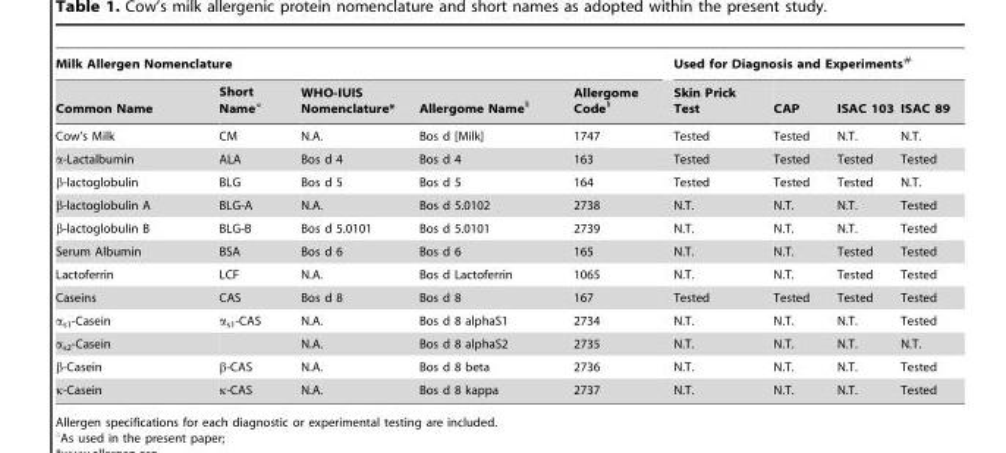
<table><thead><tr><td colspan="5">Milk Allergen Nomenclature</td><td colspan="4">Used for Diagnosis and Experiments#</td></tr><tr><td>Common Name</td><td>Short Name°</td><td>WHO-IUIS Nomenclature*</td><td>Allergome Name§</td><td>Allergome Code§</td><td>Skin Prick Test</td><td>CAP</td><td>ISAC 103</td><td>ISAC 89</td></tr></thead><tbody><tr><td>Cow’s Milk</td><td>CM</td><td>N.A.</td><td>Bos d [Milk]</td><td>1747</td><td>Tested</td><td>Tested</td><td>N.T.</td><td>N.T.</td></tr><tr><td>α-Lactalbumin</td><td>ALA</td><td>Bos d 4</td><td>Bos d 4</td><td>163</td><td>Tested</td><td>Tested</td><td>Tested</td><td>Tested</td></tr><tr><td>β-lactoglobulin</td><td>BLG</td><td>Bos d 5</td><td>Bos d 5</td><td>164</td><td>Tested</td><td>Tested</td><td>Tested</td><td>N.T.</td></tr><tr><td>β-lactoglobulin A</td><td>BLG-A</td><td>N.A.</td><td>Bos d 5.0102</td><td>2738</td><td>N.T.</td><td>N.T.</td><td>N.T.</td><td>Tested</td></tr><tr><td>β-lactoglobulin B</td><td>BLG-B</td><td>Bos d 5.0101</td><td>Bos d 5.0101</td><td>2739</td><td>N.T.</td><td>N.T.</td><td>N.T.</td><td>Tested</td></tr><tr><td>Serum Albumin</td><td>BSA</td><td>Bos d 6</td><td>Bos d 6</td><td>165</td><td>N.T.</td><td>N.T.</td><td>Tested</td><td>Tested</td></tr><tr><td>Lactoferrin</td><td>LCF</td><td>N.A.</td><td>Bos d Lactoferrin</td><td>1065</td><td>N.T.</td><td>N.T.</td><td>Tested</td><td>Tested</td></tr><tr><td>Caseins</td><td>CAS</td><td>Bos d 8</td><td>Bos d 8</td><td>167</td><td>Tested</td><td>Tested</td><td>Tested</td><td>Tested</td></tr><tr><td>α<sub>s1</sub>-Casein</td><td>α<sub>s1</sub>-CAS</td><td>N.A.</td><td>Bos d 8 alphaS1</td><td>2734</td><td>N.T.</td><td>N.T.</td><td>N.T.</td><td>Tested</td></tr><tr><td>α<sub>s2</sub>-Casein</td><td></td><td>N.A.</td><td>Bos d 8 alphaS2</td><td>2735</td><td>N.T.</td><td>N.T.</td><td>N.T.</td><td>N.T.</td></tr><tr><td>β-Casein</td><td>β-CAS</td><td>N.A.</td><td>Bos d 8 beta</td><td>2736</td><td>N.T.</td><td>N.T.</td><td>N.T.</td><td>Tested</td></tr><tr><td>κ-Casein</td><td>κ-CAS</td><td>N.A.</td><td>Bos d 8 kappa</td><td>2737</td><td>N.T.</td><td>N.T.</td><td>N.T.</td><td>Tested</td></tr></tbody></table>